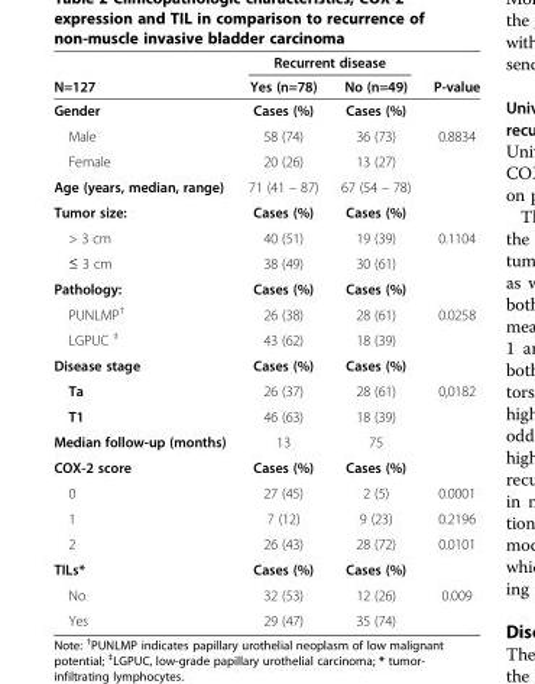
<table><thead><tr><td rowspan="2">N=127</td><td colspan="2">Recurrent disease</td><td rowspan="2">P-value</td></tr><tr><td>Yes (n=78)</td><td>No (n=49)</td></tr></thead><tbody><tr><td>Gender</td><td>Cases (%)</td><td>Cases (%)</td><td></td></tr><tr><td>Male</td><td>58 (74)</td><td>36 (73)</td><td rowspan="2">0.8834</td></tr><tr><td>Female</td><td>20 (26)</td><td>13 (27)</td></tr><tr><td>Age (years, median, range)</td><td>71 (41 – 87)</td><td>67 (54 – 78)</td><td></td></tr><tr><td>Tumor size:</td><td>Cases (%)</td><td>Cases (%)</td><td></td></tr><tr><td>&gt; 3 cm</td><td>40 (51)</td><td>19 (39)</td><td>0.1104</td></tr><tr><td>≤ 3 cm</td><td>38 (49)</td><td>30 (61)</td><td></td></tr><tr><td>Pathology:</td><td>Cases (%)</td><td>Cases (%)</td><td></td></tr><tr><td>PUNLMP<sup>†</sup></td><td>26 (38)</td><td>28 (61)</td><td>0.0258</td></tr><tr><td>LGPUC <sup>‡</sup></td><td>43 (62)</td><td>18 (39)</td><td></td></tr><tr><td>Disease stage</td><td>Cases (%)</td><td>Cases (%)</td><td></td></tr><tr><td>Ta</td><td>26 (37)</td><td>28 (61)</td><td>0,0182</td></tr><tr><td>T1</td><td>46 (63)</td><td>18 (39)</td><td></td></tr><tr><td>Median follow-up (months)</td><td>13</td><td>75</td><td></td></tr><tr><td>COX-2 score</td><td>Cases (%)</td><td>Cases (%)</td><td></td></tr><tr><td>0</td><td>27 (45)</td><td>2 (5)</td><td>0.0001</td></tr><tr><td>1</td><td>7 (12)</td><td>9 (23)</td><td>0.2196</td></tr><tr><td>2</td><td>26 (43)</td><td>28 (72)</td><td>0.0101</td></tr><tr><td>TILs*</td><td>Cases (%)</td><td>Cases (%)</td><td></td></tr><tr><td>No</td><td>32 (53)</td><td>12 (26)</td><td rowspan="2">0.009</td></tr><tr><td>Yes</td><td>29 (47)</td><td>35 (74)</td></tr></tbody></table>